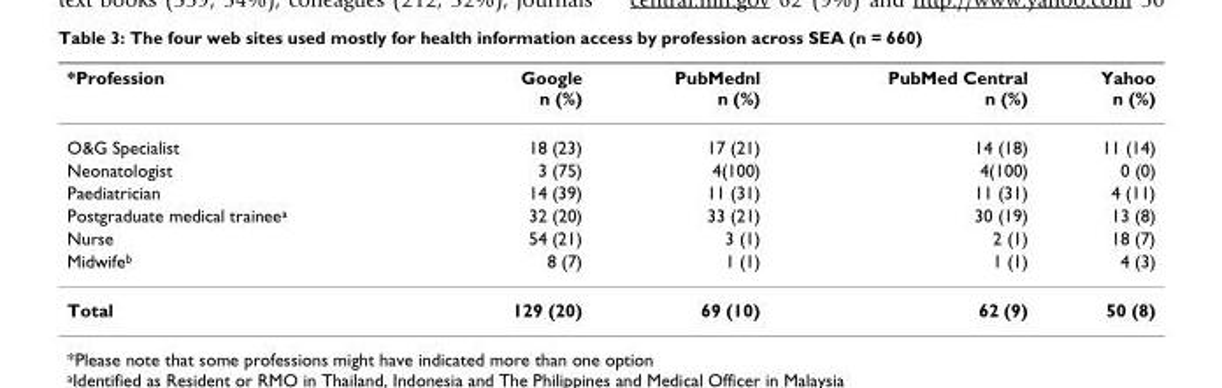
<table><thead><tr><td>*Profession</td><td>Google n (%)</td><td>PubMednl n (%)</td><td>PubMed Central n (%)</td><td>Yahoo n (%)</td></tr></thead><tbody><tr><td>O&amp;G Specialist</td><td>18 (23)</td><td>17 (21)</td><td>14 (18)</td><td>11 (14)</td></tr><tr><td>Neonatologist</td><td>3 (75)</td><td>4(100)</td><td>4(100)</td><td>0 (0)</td></tr><tr><td>Paediatrician</td><td>14 (39)</td><td>11 (31)</td><td>11 (31)</td><td>4 (11)</td></tr><tr><td>Postgraduate medical trainee<sup>a</sup></td><td>32 (20)</td><td>33 (21)</td><td>30 (19)</td><td>13 (8)</td></tr><tr><td>Nurse</td><td>54 (21)</td><td>3 (1)</td><td>2 (1)</td><td>18 (7)</td></tr><tr><td>Midwife<sup>b</sup></td><td>8 (7)</td><td>1 (1)</td><td>1 (1)</td><td>4 (3)</td></tr><tr><td>Total</td><td>129 (20)</td><td>69 (10)</td><td>62 (9)</td><td>50 (8)</td></tr></tbody></table>